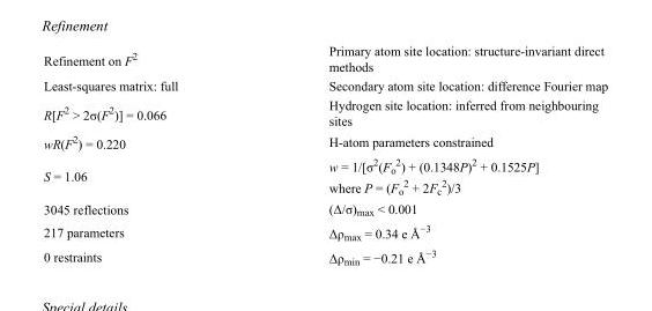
<table><tbody><tr><td>Refinement on F<sup>2</sup></td><td>Primary atom site location: structure-invariant direct methods</td></tr><tr><td>Least-squares matrix: full</td><td>Secondary atom site location: difference Fourier map</td></tr><tr><td>R[F<sup>2</sup> &gt; 2σ(F<sup>2</sup>)] = 0.066</td><td>Hydrogen site location: inferred from neighbouring sites</td></tr><tr><td>wR(F<sup>2</sup>) = 0.220</td><td>H-atom parameters constrained</td></tr><tr><td>S = 1.06</td><td>w = 1/[σ<sup>2</sup>(F<sub>o</sub> <sup>2</sup>) + (0.1348P)<sup>2</sup> + 0.1525P] where P = (F<sub>o</sub> <sup>2</sup> + 2F<sub>c</sub> <sup>2</sup>)/3</td></tr><tr><td>3045 reflections</td><td>(Δ/σ)<sub>max</sub> &lt; 0.001</td></tr><tr><td>217 parameters</td><td>Δρ<sub>max</sub> = 0.34 e Å<sup>−3</sup></td></tr><tr><td>0 restraints</td><td>Δρ<sub>min</sub> = −0.21 e Å<sup>−3</sup></td></tr></tbody></table>